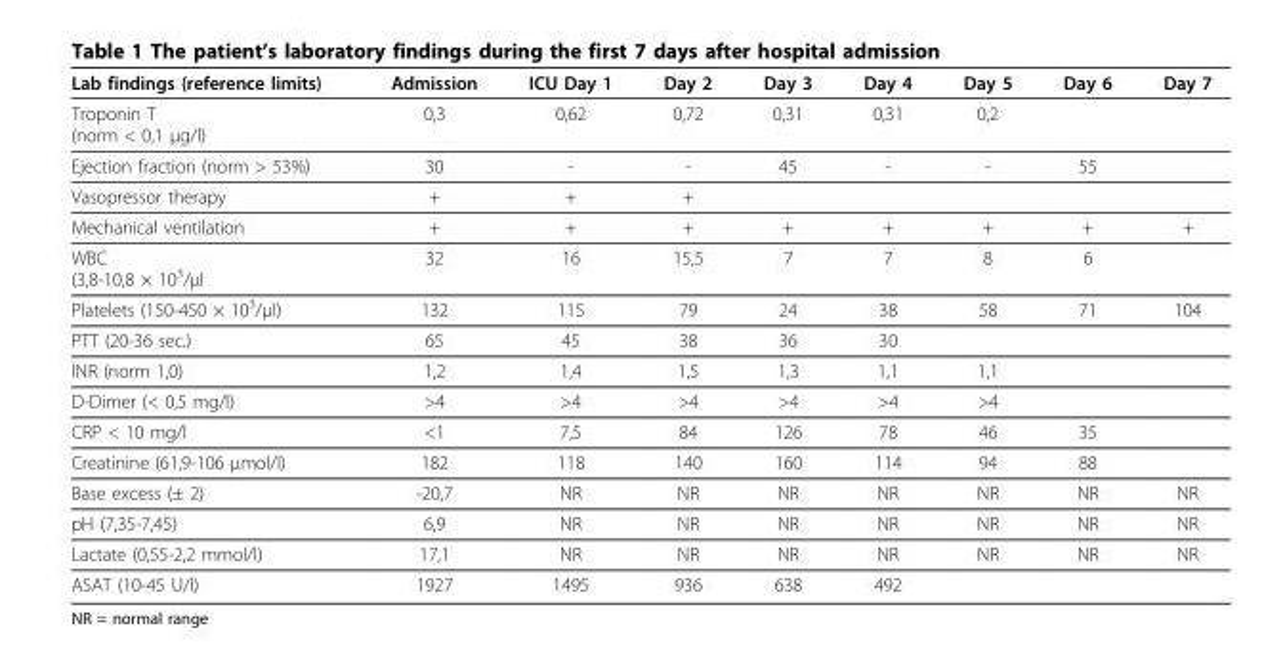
<table><thead><tr><td>Lab findings (reference limits)</td><td>Admission</td><td>ICU Day 1</td><td>Day 2</td><td>Day 3</td><td>Day 4</td><td>Day 5</td><td>Day 6</td><td>Day 7</td></tr></thead><tbody><tr><td>Troponin T (norm &lt; 0,1 μg/l)</td><td>0,3</td><td>0,62</td><td>0,72</td><td>0,31</td><td>0,31</td><td>0,2</td><td></td><td></td></tr><tr><td>Ejection fraction (norm &gt; 53%)</td><td>30</td><td>-</td><td>-</td><td>45</td><td>-</td><td>-</td><td>55</td><td></td></tr><tr><td>Vasopressor therapy</td><td>+</td><td>+</td><td>+</td><td></td><td></td><td></td><td></td><td></td></tr><tr><td>Mechanical ventilation</td><td>+</td><td>+</td><td>+</td><td>+</td><td>+</td><td>+</td><td>+</td><td>+</td></tr><tr><td>WBC (3,8-10,8 × 10<sup>3</sup>/μl</td><td>32</td><td>16</td><td>15,5</td><td>7</td><td>7</td><td>8</td><td>6</td><td></td></tr><tr><td>Platelets (150-450 × 10<sup>3</sup>/μl)</td><td>132</td><td>115</td><td>79</td><td>24</td><td>38</td><td>58</td><td>71</td><td>104</td></tr><tr><td>PTT (20-36 sec.)</td><td>65</td><td>45</td><td>38</td><td>36</td><td>30</td><td></td><td></td><td></td></tr><tr><td>INR (norm 1,0)</td><td>1,2</td><td>1,4</td><td>1,5</td><td>1,3</td><td>1,1</td><td>1,1</td><td></td><td></td></tr><tr><td>D-Dimer (&lt; 0,5 mg/l)</td><td>&gt;4</td><td>&gt;4</td><td>&gt;4</td><td>&gt;4</td><td>&gt;4</td><td>&gt;4</td><td></td><td></td></tr><tr><td>CRP &lt; 10 mg/l</td><td>&lt;1</td><td>7,5</td><td>84</td><td>126</td><td>78</td><td>46</td><td>35</td><td></td></tr><tr><td>Creatinine (61,9-106 μmol/l)</td><td>182</td><td>118</td><td>140</td><td>160</td><td>114</td><td>94</td><td>88</td><td></td></tr><tr><td>Base excess (± 2)</td><td>-20,7</td><td>NR</td><td>NR</td><td>NR</td><td>NR</td><td>NR</td><td>NR</td><td>NR</td></tr><tr><td>pH (7,35-7,45)</td><td>6,9</td><td>NR</td><td>NR</td><td>NR</td><td>NR</td><td>NR</td><td>NR</td><td>NR</td></tr><tr><td>Lactate (0,55-2,2 mmol/l)</td><td>17,1</td><td>NR</td><td>NR</td><td>NR</td><td>NR</td><td>NR</td><td>NR</td><td>NR</td></tr><tr><td>ASAT (10-45 U/l)</td><td>1927</td><td>1495</td><td>936</td><td>638</td><td>492</td><td></td><td></td><td></td></tr></tbody></table>